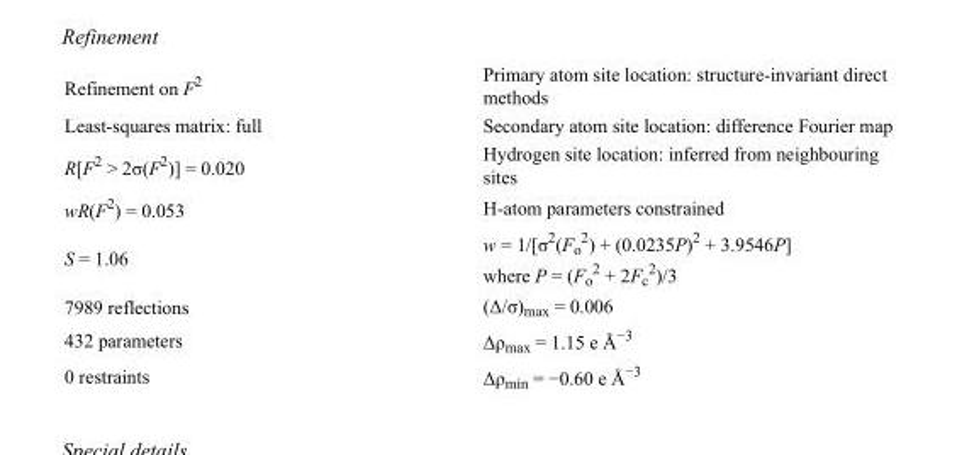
<table><tbody><tr><td>Refinement on F<sup>2</sup></td><td>Primary atom site location: structure-invariant direct methods</td></tr><tr><td>Least-squares matrix: full</td><td>Secondary atom site location: difference Fourier map</td></tr><tr><td>R[F<sup>2</sup> &gt; 2σ(F<sup>2</sup>)] = 0.020</td><td>Hydrogen site location: inferred from neighbouring sites</td></tr><tr><td>wR(F<sup>2</sup>) = 0.053</td><td>H-atom parameters constrained</td></tr><tr><td>S = 1.06</td><td>w = 1/[σ<sup>2</sup>(F<sub>o</sub> <sup>2</sup>) + (0.0235P)<sup>2</sup> + 3.9546P] where P = (F<sub>o</sub> <sup>2</sup> + 2F<sub>c</sub> <sup>2</sup>)/3</td></tr><tr><td>7989 reflections</td><td>(Δ/σ)<sub>max</sub> = 0.006</td></tr><tr><td>432 parameters</td><td>Δρ<sub>max</sub> = 1.15 e Å<sup>−3</sup></td></tr><tr><td>0 restraints</td><td>Δρ<sub>min</sub> = −0.60 e Å<sup>−3</sup></td></tr></tbody></table>